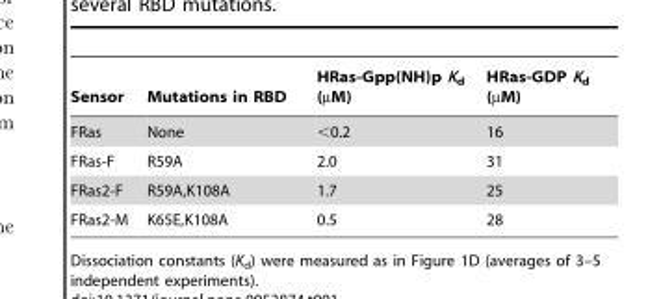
<table><thead><tr><td>Sensor</td><td>Mutations in RBD</td><td>HRas-Gpp(NH)p K<sub>d</sub> (µM)</td><td>HRas-GDP K<sub>d</sub> (µM)</td></tr></thead><tbody><tr><td>FRas</td><td>None</td><td>&lt;0.2</td><td>16</td></tr><tr><td>FRas-F</td><td>R59A</td><td>2.0</td><td>31</td></tr><tr><td>FRas2-F</td><td>R59A,K108A</td><td>1.7</td><td>25</td></tr><tr><td>FRas2-M</td><td>K65E,K108A</td><td>0.5</td><td>28</td></tr></tbody></table>